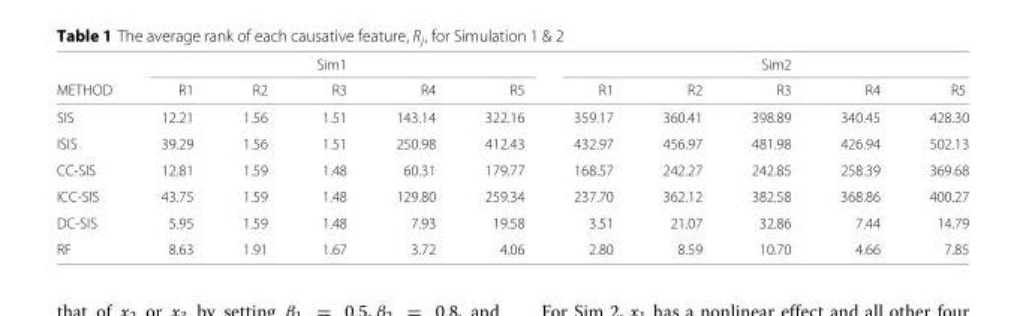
<table><thead><tr><td rowspan="2">METHOD</td><td rowspan="2">R1</td><td rowspan="2">R2</td><td rowspan="2">Sim1 R3</td><td rowspan="2">R4</td><td rowspan="2">R5</td><td rowspan="2">R1</td><td rowspan="2">R2</td><td rowspan="2">Sim2 R3</td><td rowspan="2">R4</td><td rowspan="2">R5</td></tr><tr></tr></thead><tbody><tr><td>SIS</td><td>12.21</td><td>1.56</td><td>1.51</td><td>143.14</td><td>322.16</td><td>359.17</td><td>360.41</td><td>398.89</td><td>340.45</td><td>428.30</td></tr><tr><td>ISIS</td><td>39.29</td><td>1.56</td><td>1.51</td><td>250.98</td><td>412.43</td><td>432.97</td><td>456.97</td><td>481.98</td><td>426.94</td><td>502.13</td></tr><tr><td>CC-SIS</td><td>12.81</td><td>1.59</td><td>1.48</td><td>60.31</td><td>179.77</td><td>168.57</td><td>242.27</td><td>242.85</td><td>258.39</td><td>369.68</td></tr><tr><td>ICC-SIS</td><td>43.75</td><td>1.59</td><td>1.48</td><td>129.80</td><td>259.34</td><td>237.70</td><td>362.12</td><td>382.58</td><td>368.86</td><td>400.27</td></tr><tr><td>DC-SIS</td><td>5.95</td><td>1.59</td><td>1.48</td><td>7.93</td><td>19.58</td><td>3.51</td><td>21.07</td><td>32.86</td><td>7.44</td><td>14.79</td></tr><tr><td>RF</td><td>8.63</td><td>1.91</td><td>1.67</td><td>3.72</td><td>4.06</td><td>2.80</td><td>8.59</td><td>10.70</td><td>4.66</td><td>7.85</td></tr></tbody></table>